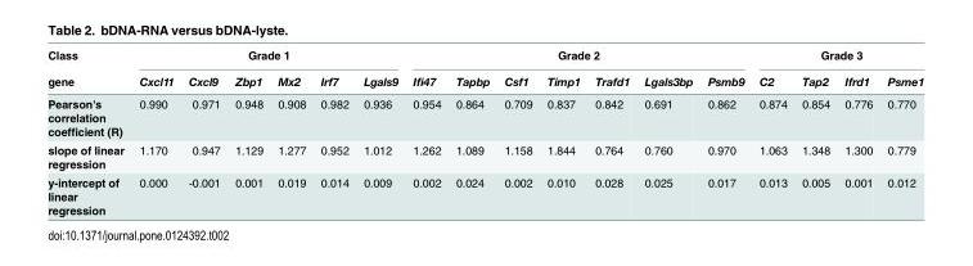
<table><thead><tr><td rowspan="2">Class gene</td><td colspan="6">Grade 1</td><td colspan="7">Grade 2</td><td colspan="4">Grade 3</td></tr><tr><td>Cxcl11</td><td>Cxcl9</td><td>Zbp1</td><td>Mx2</td><td>Irf7</td><td>Lgals9</td><td>Ifi47</td><td>Tapbp</td><td>Csf1</td><td>Timp1</td><td>Trafd1</td><td>Lgals3bp</td><td>Psmb9</td><td>C2</td><td>Tap2</td><td>Ifrd1</td><td>Psme1</td></tr></thead><tbody><tr><td>Pearson&#x27;s correlation coefficient (R)</td><td>0.990</td><td>0.971</td><td>0.948</td><td>0.908</td><td>0.982</td><td>0.936</td><td>0.954</td><td>0.864</td><td>0.709</td><td>0.837</td><td>0.842</td><td>0.691</td><td>0.862</td><td>0.874</td><td>0.854</td><td>0.776</td><td>0.770</td></tr><tr><td>slope of linear regression</td><td>1.170</td><td>0.947</td><td>1.129</td><td>1.277</td><td>0.952</td><td>1.012</td><td>1.262</td><td>1.089</td><td>1.158</td><td>1.844</td><td>0.764</td><td>0.760</td><td>0.970</td><td>1.063</td><td>1.348</td><td>1.300</td><td>0.779</td></tr><tr><td>y-intercept of linear regression</td><td>0.000</td><td>-0.001</td><td>0.001</td><td>0.019</td><td>0.014</td><td>0.009</td><td>0.002</td><td>0.024</td><td>0.002</td><td>0.010</td><td>0.028</td><td>0.025</td><td>0.017</td><td>0.013</td><td>0.005</td><td>0.001</td><td>0.012</td></tr></tbody></table>